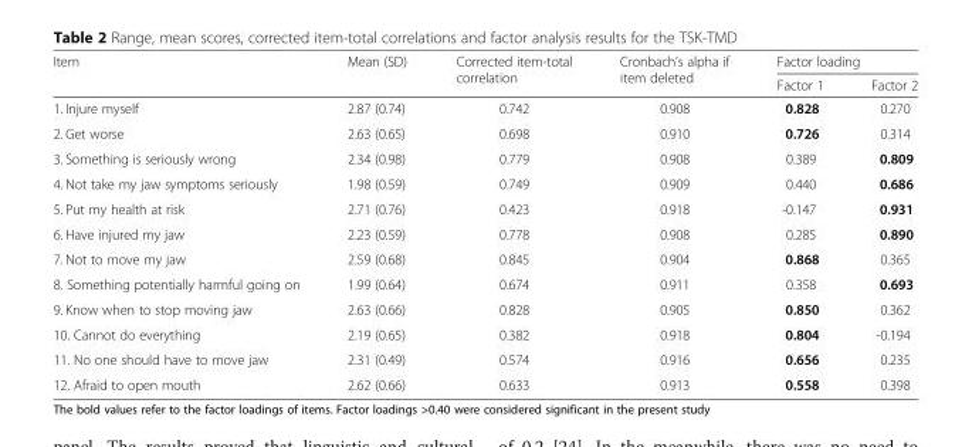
<table><thead><tr><td rowspan="2">Item</td><td rowspan="2">Mean (SD)</td><td rowspan="2">Corrected item-total correlation</td><td rowspan="2">Cronbach’s alpha if item deleted</td><td colspan="2">Factor loading</td></tr><tr><td>Factor 1</td><td>Factor 2</td></tr></thead><tbody><tr><td>1. Injure myself</td><td>2.87 (0.74)</td><td>0.742</td><td>0.908</td><td>0.828</td><td>0.270</td></tr><tr><td>2. Get worse</td><td>2.63 (0.65)</td><td>0.698</td><td>0.910</td><td>0.726</td><td>0.314</td></tr><tr><td>3. Something is seriously wrong</td><td>2.34 (0.98)</td><td>0.779</td><td>0.908</td><td>0.389</td><td>0.809</td></tr><tr><td>4. Not take my jaw symptoms seriously</td><td>1.98 (0.59)</td><td>0.749</td><td>0.909</td><td>0.440</td><td>0.686</td></tr><tr><td>5. Put my health at risk</td><td>2.71 (0.76)</td><td>0.423</td><td>0.918</td><td>-0.147</td><td>0.931</td></tr><tr><td>6. Have injured my jaw</td><td>2.23 (0.59)</td><td>0.778</td><td>0.908</td><td>0.285</td><td>0.890</td></tr><tr><td>7. Not to move my jaw</td><td>2.59 (0.68)</td><td>0.845</td><td>0.904</td><td>0.868</td><td>0.365</td></tr><tr><td>8. Something potentially harmful going on</td><td>1.99 (0.64)</td><td>0.674</td><td>0.911</td><td>0.358</td><td>0.693</td></tr><tr><td>9. Know when to stop moving jaw</td><td>2.63 (0.66)</td><td>0.828</td><td>0.905</td><td>0.850</td><td>0.362</td></tr><tr><td>10. Cannot do everything</td><td>2.19 (0.65)</td><td>0.382</td><td>0.918</td><td>0.804</td><td>-0.194</td></tr><tr><td>11. No one should have to move jaw</td><td>2.31 (0.49)</td><td>0.574</td><td>0.916</td><td>0.656</td><td>0.235</td></tr><tr><td>12. Afraid to open mouth</td><td>2.62 (0.66)</td><td>0.633</td><td>0.913</td><td>0.558</td><td>0.398</td></tr></tbody></table>